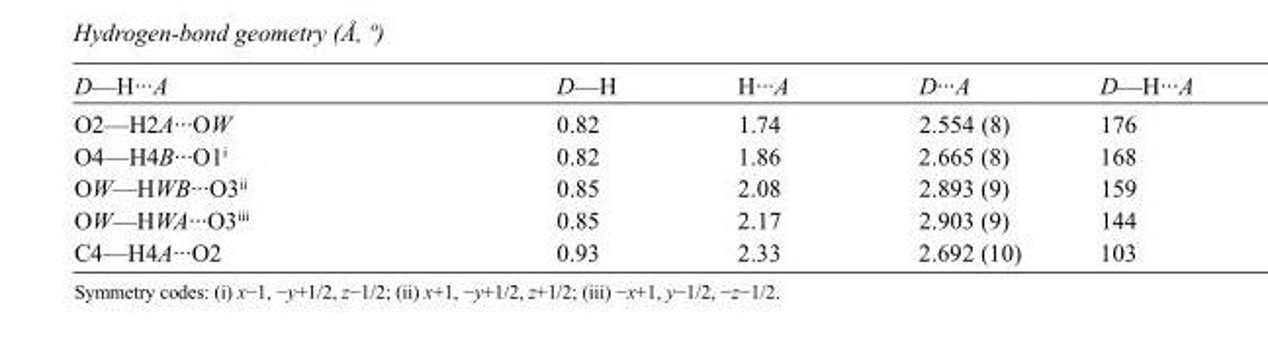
<table><tbody><tr><td>D—H···A</td><td>D—H</td><td>H···A</td><td>D···A</td><td>D—H···A</td></tr><tr><td>O2—H2A···OW</td><td>0.82</td><td>1.74</td><td>2.554 (8)</td><td>176</td></tr><tr><td>O4—H4B···O1<sup>i</sup></td><td>0.82</td><td>1.86</td><td>2.665 (8)</td><td>168</td></tr><tr><td>OW—HWB···O3<sup>ii</sup></td><td>0.85</td><td>2.08</td><td>2.893 (9)</td><td>159</td></tr><tr><td>OW—HWA···O3<sup>iii</sup></td><td>0.85</td><td>2.17</td><td>2.903 (9)</td><td>144</td></tr><tr><td>C4—H4A···O2</td><td>0.93</td><td>2.33</td><td>2.692 (10)</td><td>103</td></tr></tbody></table>